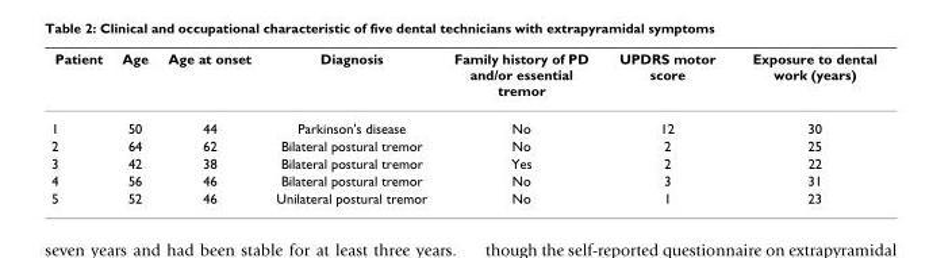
<table><thead><tr><td>Patient</td><td>Age</td><td>Age at onset</td><td>Diagnosis</td><td>Family history of PD and/or essential tremor</td><td>UPDRS motor score</td><td>Exposure to dental work (years)</td></tr></thead><tbody><tr><td>1</td><td>50</td><td>44</td><td>Parkinson&#x27;s disease</td><td>No</td><td>12</td><td>30</td></tr><tr><td>2</td><td>64</td><td>62</td><td>Bilateral postural tremor</td><td>No</td><td>2</td><td>25</td></tr><tr><td>3</td><td>42</td><td>38</td><td>Bilateral postural tremor</td><td>Yes</td><td>2</td><td>22</td></tr><tr><td>4</td><td>56</td><td>46</td><td>Bilateral postural tremor</td><td>No</td><td>3</td><td>31</td></tr><tr><td>5</td><td>52</td><td>46</td><td>Unilateral postural tremor</td><td>No</td><td>1</td><td>23</td></tr></tbody></table>